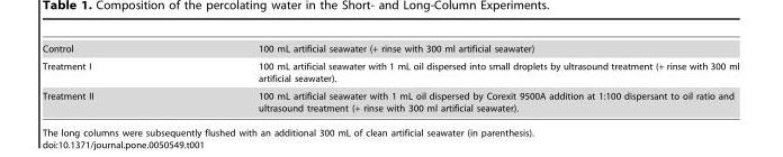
<table><tbody><tr><td>Control</td><td>100 mL artificial seawater (+ rinse with 300 ml artificial seawater)</td></tr><tr><td>Treatment I</td><td>100 mL artificial seawater with 1 mL oil dispersed into small droplets by ultrasound treatment (+ rinse with 300 ml artificial seawater).</td></tr><tr><td>Treatment II</td><td>100 mL artificial seawater with 1 mL oil dispersed by Corexit 9500A addition at 1:100 dispersant to oil ratio and ultrasound treatment (+ rinse with 300 ml artificial seawater).</td></tr></tbody></table>